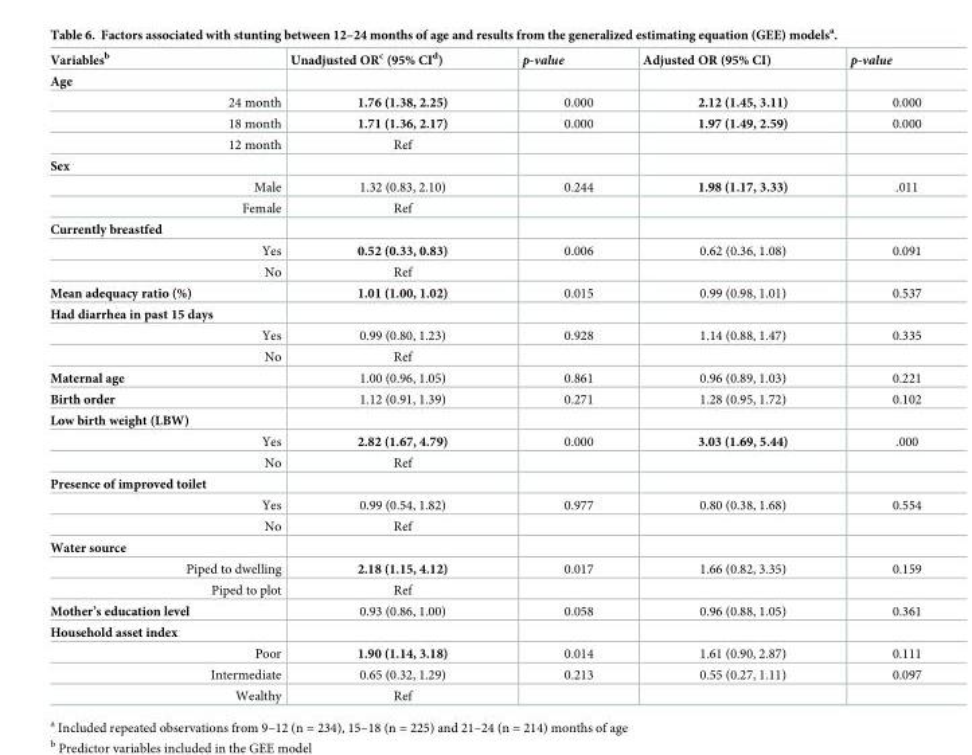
<table><thead><tr><td>Variables<sup>b</sup></td><td>Unadjusted OR<sup>c</sup> (95% CI<sup>d</sup>)</td><td>p-value</td><td>Adjusted OR (95% CI)</td><td>p-value</td></tr></thead><tbody><tr><td colspan="5">Age</td></tr><tr><td>24 month</td><td>1.76 (1.38, 2.25)</td><td>0.000</td><td>2.12 (1.45, 3.11)</td><td>0.000</td></tr><tr><td>18 month</td><td>1.71 (1.36, 2.17)</td><td>0.000</td><td>1.97 (1.49, 2.59)</td><td>0.000</td></tr><tr><td>12 month</td><td>Ref</td><td></td><td></td><td></td></tr><tr><td colspan="5">Sex</td></tr><tr><td>Male</td><td>1.32 (0.83, 2.10)</td><td>0.244</td><td>1.98 (1.17, 3.33)</td><td>.011</td></tr><tr><td>Female</td><td>Ref</td><td></td><td></td><td></td></tr><tr><td colspan="5">Currently breastfed</td></tr><tr><td>Yes</td><td>0.52 (0.33, 0.83)</td><td>0.006</td><td>0.62 (0.36, 1.08)</td><td>0.091</td></tr><tr><td>No</td><td>Ref</td><td></td><td></td><td></td></tr><tr><td>Mean adequacy ratio (%)</td><td>1.01 (1.00, 1.02)</td><td>0.015</td><td>0.99 (0.98, 1.01)</td><td>0.537</td></tr><tr><td colspan="5">Had diarrhea in past 15 days</td></tr><tr><td>Yes</td><td>0.99 (0.80, 1.23)</td><td>0.928</td><td>1.14 (0.88, 1.47)</td><td>0.335</td></tr><tr><td>No</td><td>Ref</td><td></td><td></td><td></td></tr><tr><td>Maternal age</td><td>1.00 (0.96, 1.05)</td><td>0.861</td><td>0.96 (0.89, 1.03)</td><td>0.221</td></tr><tr><td>Birth order</td><td>1.12 (0.91, 1.39)</td><td>0.271</td><td>1.28 (0.95, 1.72)</td><td>0.102</td></tr><tr><td colspan="5">Low birth weight (LBW)</td></tr><tr><td>Yes</td><td>2.82 (1.67, 4.79)</td><td>0.000</td><td>3.03 (1.69, 5.44)</td><td>.000</td></tr><tr><td>No</td><td>Ref</td><td></td><td></td><td></td></tr><tr><td colspan="5">Presence of improved toilet</td></tr><tr><td>Yes</td><td>0.99 (0.54, 1.82)</td><td>0.977</td><td>0.80 (0.38, 1.68)</td><td>0.554</td></tr><tr><td>No</td><td>Ref</td><td></td><td></td><td></td></tr><tr><td colspan="5">Water source</td></tr><tr><td>Piped to dwelling</td><td>2.18 (1.15, 4.12)</td><td>0.017</td><td>1.66 (0.82, 3.35)</td><td>0.159</td></tr><tr><td>Piped to plot</td><td>Ref</td><td></td><td></td><td></td></tr><tr><td>Mother’s education level</td><td>0.93 (0.86, 1.00)</td><td>0.058</td><td>0.96 (0.88, 1.05)</td><td>0.361</td></tr><tr><td colspan="5">Household asset index</td></tr><tr><td>Poor</td><td>1.90 (1.14, 3.18)</td><td>0.014</td><td>1.61 (0.90, 2.87)</td><td>0.111</td></tr><tr><td>Intermediate</td><td>0.65 (0.32, 1.29)</td><td>0.213</td><td>0.55 (0.27, 1.11)</td><td>0.097</td></tr><tr><td>Wealthy</td><td>Ref</td><td></td><td></td><td></td></tr></tbody></table>